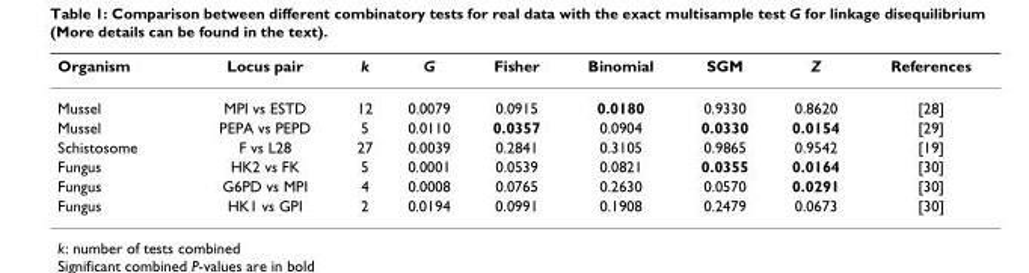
<table><thead><tr><td>Organism</td><td>Locus pair</td><td>k</td><td>G</td><td>Fisher</td><td>Binomial</td><td>SGM</td><td>Z</td><td>References</td></tr></thead><tbody><tr><td>Mussel</td><td>MPI vs ESTD</td><td>12</td><td>0.0079</td><td>0.0915</td><td>0.0180</td><td>0.9330</td><td>0.8620</td><td>[28]</td></tr><tr><td>Mussel</td><td>PEPA vs PEPD</td><td>5</td><td>0.0110</td><td>0.0357</td><td>0.0904</td><td>0.0330</td><td>0.0154</td><td>[29]</td></tr><tr><td>Schistosome</td><td>F vs L28</td><td>27</td><td>0.0039</td><td>0.2841</td><td>0.3105</td><td>0.9865</td><td>0.9542</td><td>[19]</td></tr><tr><td>Fungus</td><td>HK2 vs FK</td><td>5</td><td>0.0001</td><td>0.0539</td><td>0.0821</td><td>0.0355</td><td>0.0164</td><td>[30]</td></tr><tr><td>Fungus</td><td>G6PD vs MPI</td><td>4</td><td>0.0008</td><td>0.0765</td><td>0.2630</td><td>0.0570</td><td>0.0291</td><td>[30]</td></tr><tr><td>Fungus</td><td>HK1 vs GPI</td><td>2</td><td>0.0194</td><td>0.0991</td><td>0.1908</td><td>0.2479</td><td>0.0673</td><td>[30]</td></tr></tbody></table>